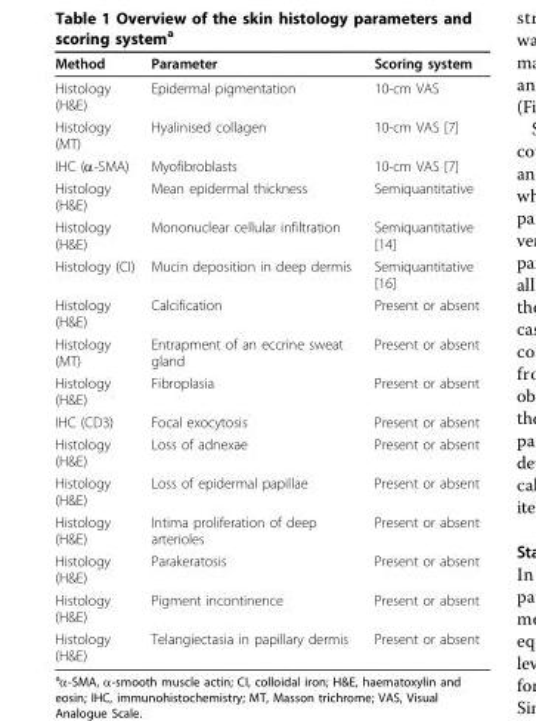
<table><thead><tr><td>Method</td><td>Parameter</td><td>Scoring system</td></tr></thead><tbody><tr><td>Histology (H&amp;E)</td><td>Epidermal pigmentation</td><td>10-cm VAS</td></tr><tr><td>Histology (MT)</td><td>Hyalinised collagen</td><td>10-cm VAS [7]</td></tr><tr><td>IHC (α-SMA)</td><td>Myofibroblasts</td><td>10-cm VAS [7]</td></tr><tr><td>Histology (H&amp;E)</td><td>Mean epidermal thickness</td><td>Semiquantitative</td></tr><tr><td>Histology (H&amp;E)</td><td>Mononuclear cellular infiltration</td><td>Semiquantitative [14]</td></tr><tr><td>Histology (CI)</td><td>Mucin deposition in deep dermis</td><td>Semiquantitative [16]</td></tr><tr><td>Histology (H&amp;E)</td><td>Calcification</td><td>Present or absent</td></tr><tr><td>Histology (MT)</td><td>Entrapment of an eccrine sweat gland</td><td>Present or absent</td></tr><tr><td>Histology (H&amp;E)</td><td>Fibroplasia</td><td>Present or absent</td></tr><tr><td>IHC (CD3)</td><td>Focal exocytosis</td><td>Present or absent</td></tr><tr><td>Histology (H&amp;E)</td><td>Loss of adnexae</td><td>Present or absent</td></tr><tr><td>Histology (H&amp;E)</td><td>Loss of epidermal papillae</td><td>Present or absent</td></tr><tr><td>Histology (H&amp;E)</td><td>Intima proliferation of deep arterioles</td><td>Present or absent</td></tr><tr><td>Histology (H&amp;E)</td><td>Parakeratosis</td><td>Present or absent</td></tr><tr><td>Histology (H&amp;E)</td><td>Pigment incontinence</td><td>Present or absent</td></tr><tr><td>Histology (H&amp;E)</td><td>Telangiectasia in papillary dermis</td><td>Present or absent</td></tr></tbody></table>